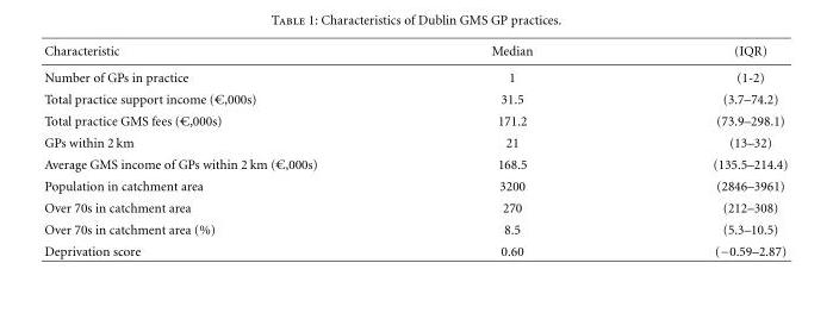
<table><thead><tr><td>Characteristic</td><td>Median</td><td>(IQR)</td></tr></thead><tbody><tr><td>Number of GPs in practice</td><td>1</td><td>(1-2)</td></tr><tr><td>Total practice support income (€,000s)</td><td>31.5</td><td>(3.7–74.2)</td></tr><tr><td>Total practice GMS fees (€,000s)</td><td>171.2</td><td>(73.9–298.1)</td></tr><tr><td>GPs within 2 km</td><td>21</td><td>(13–32)</td></tr><tr><td>Average GMS income of GPs within 2 km (€,000s)</td><td>168.5</td><td>(135.5–214.4)</td></tr><tr><td>Population in catchment area</td><td>3200</td><td>(2846–3961)</td></tr><tr><td>Over 70s in catchment area</td><td>270</td><td>(212–308)</td></tr><tr><td>Over 70s in catchment area (%)</td><td>8.5</td><td>(5.3–10.5)</td></tr><tr><td>Deprivation score</td><td>0.60</td><td>(−0.59–2.87)</td></tr></tbody></table>